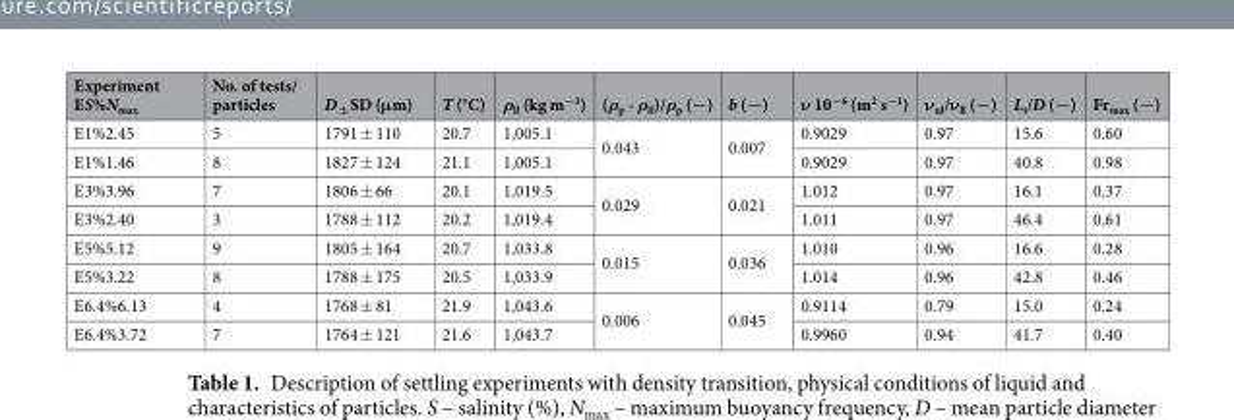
<table><thead><tr><td>Experiment ES%N<sub>max</sub></td><td>No. of tests/ particles</td><td>D <sub>±</sub> SD (μm)</td><td>T (°C)</td><td>ρ<sub>ll</sub> (kg m<sup>−3</sup>)</td><td>(ρ<sub>p</sub> - ρ<sub>ll</sub>)/ρ<sub>p</sub> (−)</td><td>b (−)</td><td>ν 10<sup>−6</sup> (m<sup>2</sup> s<sup>−1</sup>)</td><td>ν<sub>ul</sub>/ν<sub>ll</sub> (−)</td><td>L<sub>t</sub>/D (−)</td><td>Fr<sub>max</sub> (−)</td></tr></thead><tbody><tr><td>E1%2.45</td><td>5</td><td>1791 ± 110</td><td>20.7</td><td>1,005.1</td><td rowspan="2">0.043</td><td rowspan="2">0.007</td><td>0.9029</td><td>0.97</td><td>15.6</td><td>0.60</td></tr><tr><td>E1%1.46</td><td>8</td><td>1827 ± 124</td><td>21.1</td><td>1,005.1</td><td>0.9029</td><td>0.97</td><td>40.8</td><td>0.98</td></tr><tr><td>E3%3.96</td><td>7</td><td>1806 ± 66</td><td>20.1</td><td>1,019.5</td><td rowspan="2">0.029</td><td rowspan="2">0.021</td><td>1.012</td><td>0.97</td><td>16.1</td><td>0.37</td></tr><tr><td>E3%2.40</td><td>3</td><td>1788 ± 112</td><td>20.2</td><td>1,019.4</td><td>1.011</td><td>0.97</td><td>46.4</td><td>0.61</td></tr><tr><td>E5%5.12</td><td>9</td><td>1805 ± 164</td><td>20.7</td><td>1,033.8</td><td rowspan="2">0.015</td><td rowspan="2">0.036</td><td>1.010</td><td>0.96</td><td>16.6</td><td>0.28</td></tr><tr><td>E5%3.22</td><td>8</td><td>1788 ± 175</td><td>20.5</td><td>1,033.9</td><td>1.014</td><td>0.96</td><td>42.8</td><td>0.46</td></tr><tr><td>E6.4%6.13</td><td>4</td><td>1768 ± 81</td><td>21.9</td><td>1,043.6</td><td rowspan="2">0.006</td><td rowspan="2">0.045</td><td>0.9114</td><td>0.79</td><td>15.0</td><td>0.24</td></tr><tr><td>E6.4%3.72</td><td>7</td><td>1764 ± 121</td><td>21.6</td><td>1,043.7</td><td>0.9960</td><td>0.94</td><td>41.7</td><td>0.40</td></tr></tbody></table>